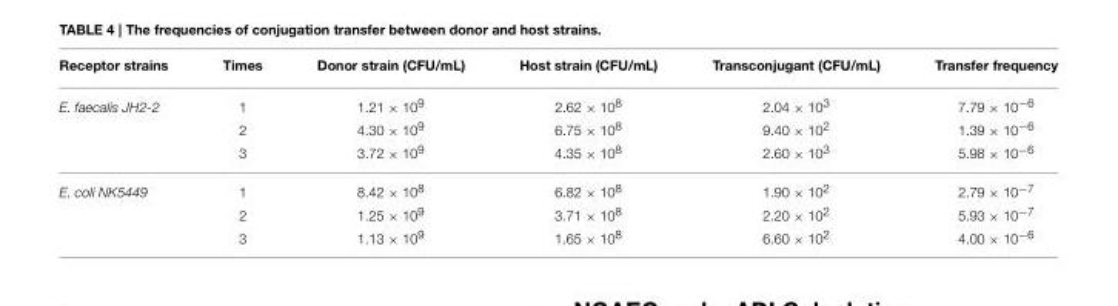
<table><thead><tr><td>Receptor strains</td><td>Times</td><td>Donor strain (CFU/mL)</td><td>Host strain (CFU/mL)</td><td>Transconjugant (CFU/mL)</td><td>Transfer frequency</td></tr></thead><tbody><tr><td rowspan="3">E. faecalis JH2-2</td><td>1</td><td>1.21 × 10<sup>9</sup></td><td>2.62 × 10<sup>8</sup></td><td>2.04 × 10<sup>3</sup></td><td>7.79 × 10<sup>−6</sup></td></tr><tr><td>2</td><td>4.30 × 10<sup>9</sup></td><td>6.75 × 10<sup>8</sup></td><td>9.40 × 10<sup>2</sup></td><td>1.39 × 10<sup>−6</sup></td></tr><tr><td>3</td><td>3.72 × 10<sup>9</sup></td><td>4.35 × 10<sup>8</sup></td><td>2.60 × 10<sup>3</sup></td><td>5.98 × 10<sup>−6</sup></td></tr><tr><td rowspan="3">E. coli NK5449</td><td>1</td><td>8.42 × 10<sup>8</sup></td><td>6.82 × 10<sup>8</sup></td><td>1.90 × 10<sup>2</sup></td><td>2.79 × 10<sup>−7</sup></td></tr><tr><td>2</td><td>1.25 × 10<sup>9</sup></td><td>3.71 × 10<sup>8</sup></td><td>2.20 × 10<sup>2</sup></td><td>5.93 × 10<sup>−7</sup></td></tr><tr><td>3</td><td>1.13 × 10<sup>9</sup></td><td>1.65 × 10<sup>8</sup></td><td>6.60 × 10<sup>2</sup></td><td>4.00 × 10<sup>−6</sup></td></tr></tbody></table>